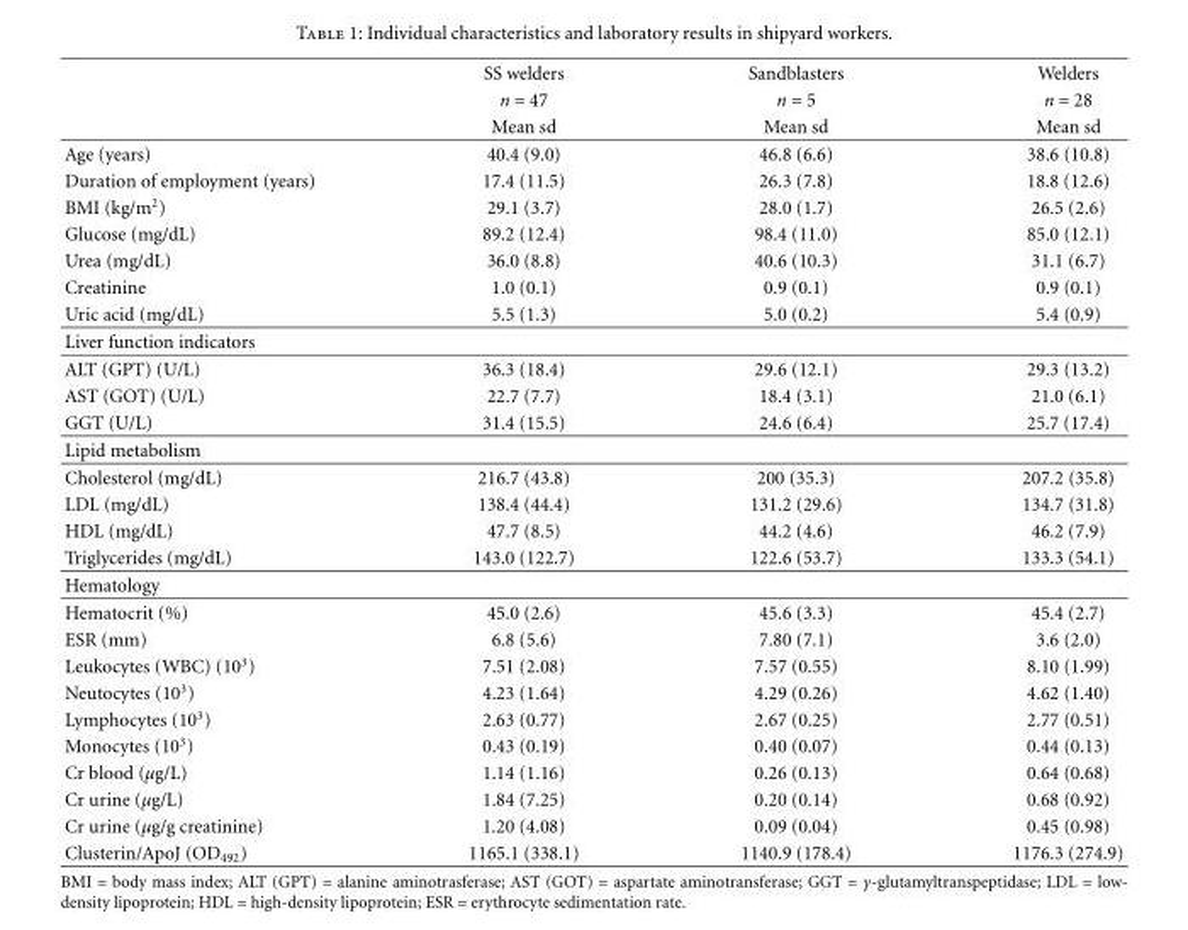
<table><thead><tr><td rowspan="3"></td><td rowspan="3">SS welders n = 47 Mean sd</td><td rowspan="3">Sandblasters n = 5 Mean sd</td><td rowspan="3">Welders n = 28 Mean sd</td></tr><tr></tr><tr></tr></thead><tbody><tr><td>Age (years)</td><td>40.4 (9.0)</td><td>46.8 (6.6)</td><td>38.6 (10.8)</td></tr><tr><td>Duration of employment (years)</td><td>17.4 (11.5)</td><td>26.3 (7.8)</td><td>18.8 (12.6)</td></tr><tr><td>BMI (kg/m2)</td><td>29.1 (3.7)</td><td>28.0 (1.7)</td><td>26.5 (2.6)</td></tr><tr><td>Glucose (mg/dL)</td><td>89.2 (12.4)</td><td>98.4 (11.0)</td><td>85.0 (12.1)</td></tr><tr><td>Urea (mg/dL)</td><td>36.0 (8.8)</td><td>40.6 (10.3)</td><td>31.1 (6.7)</td></tr><tr><td>Creatinine</td><td>1.0 (0.1)</td><td>0.9 (0.1)</td><td>0.9 (0.1)</td></tr><tr><td>Uric acid (mg/dL)</td><td>5.5 (1.3)</td><td>5.0 (0.2)</td><td>5.4 (0.9)</td></tr><tr><td colspan="4">Liver function indicators</td></tr><tr><td>ALT (GPT) (U/L)</td><td>36.3 (18.4)</td><td>29.6 (12.1)</td><td>29.3 (13.2)</td></tr><tr><td>AST (GOT) (U/L)</td><td>22.7 (7.7)</td><td>18.4 (3.1)</td><td>21.0 (6.1)</td></tr><tr><td>GGT (U/L)</td><td>31.4 (15.5)</td><td>24.6 (6.4)</td><td>25.7 (17.4)</td></tr><tr><td colspan="4">Lipid metabolism</td></tr><tr><td>Cholesterol (mg/dL)</td><td>216.7 (43.8)</td><td>200 (35.3)</td><td>207.2 (35.8)</td></tr><tr><td>LDL (mg/dL)</td><td>138.4 (44.4)</td><td>131.2 (29.6)</td><td>134.7 (31.8)</td></tr><tr><td>HDL (mg/dL)</td><td>47.7 (8.5)</td><td>44.2 (4.6)</td><td>46.2 (7.9)</td></tr><tr><td>Triglycerides (mg/dL)</td><td>143.0 (122.7)</td><td>122.6 (53.7)</td><td>133.3 (54.1)</td></tr><tr><td colspan="4">Hematology</td></tr><tr><td>Hematocrit (%)</td><td>45.0 (2.6)</td><td>45.6 (3.3)</td><td>45.4 (2.7)</td></tr><tr><td>ESR (mm)</td><td>6.8 (5.6)</td><td>7.80 (7.1)</td><td>3.6 (2.0)</td></tr><tr><td>Leukocytes (WBC) (10<sup>3</sup>)</td><td>7.51 (2.08)</td><td>7.57 (0.55)</td><td>8.10 (1.99)</td></tr><tr><td>Neutocytes (10<sup>3</sup>)</td><td>4.23 (1.64)</td><td>4.29 (0.26)</td><td>4.62 (1.40)</td></tr><tr><td>Lymphocytes (10<sup>3</sup>)</td><td>2.63 (0.77)</td><td>2.67 (0.25)</td><td>2.77 (0.51)</td></tr><tr><td>Monocytes (10<sup>3</sup>)</td><td>0.43 (0.19)</td><td>0.40 (0.07)</td><td>0.44 (0.13)</td></tr><tr><td>Cr blood (μg/L)</td><td>1.14 (1.16)</td><td>0.26 (0.13)</td><td>0.64 (0.68)</td></tr><tr><td>Cr urine (μg/L)</td><td>1.84 (7.25)</td><td>0.20 (0.14)</td><td>0.68 (0.92)</td></tr><tr><td>Cr urine (μg/g creatinine)</td><td>1.20 (4.08)</td><td>0.09 (0.04)</td><td>0.45 (0.98)</td></tr><tr><td>Clusterin/ApoJ (OD<sub>492</sub>)</td><td>1165.1 (338.1)</td><td>1140.9 (178.4)</td><td>1176.3 (274.9)</td></tr></tbody></table>